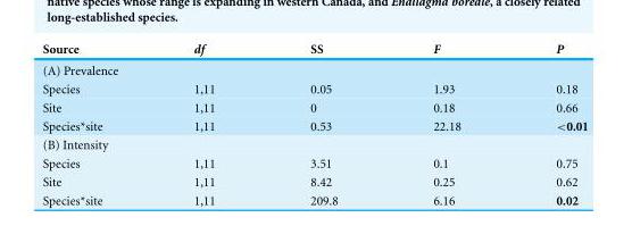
<table><thead><tr><td>Source</td><td>df</td><td>SS</td><td>F</td><td>P</td></tr></thead><tbody><tr><td colspan="5">(A) Prevalence</td></tr><tr><td>Species</td><td>1,11</td><td>0.05</td><td>1.93</td><td>0.18</td></tr><tr><td>Site</td><td>1,11</td><td>0</td><td>0.18</td><td>0.66</td></tr><tr><td>Species*site</td><td>1,11</td><td>0.53</td><td>22.18</td><td>&lt;0.01</td></tr><tr><td colspan="5">(B) Intensity</td></tr><tr><td>Species</td><td>1,11</td><td>3.51</td><td>0.1</td><td>0.75</td></tr><tr><td>Site</td><td>1,11</td><td>8.42</td><td>0.25</td><td>0.62</td></tr><tr><td>Species*site</td><td>1,11</td><td>209.8</td><td>6.16</td><td>0.02</td></tr></tbody></table>